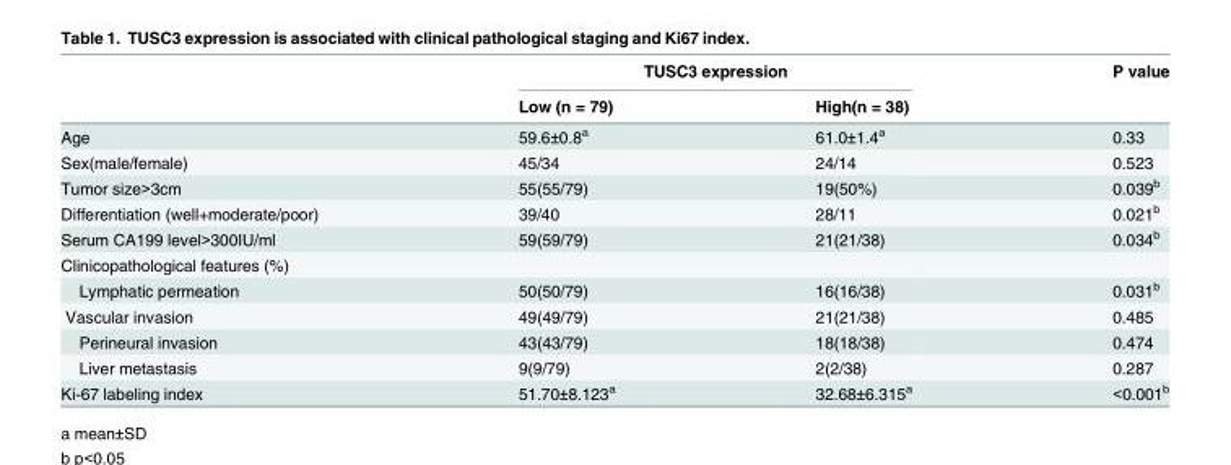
<table><thead><tr><td rowspan="2"></td><td colspan="2">TUSC3 expression</td><td rowspan="2">P value</td></tr><tr><td>Low (n = 79)</td><td>High(n = 38)</td></tr></thead><tbody><tr><td>Age</td><td>59.6±0.8<sup>a</sup></td><td>61.0±1.4<sup>a</sup></td><td>0.33</td></tr><tr><td>Sex(male/female)</td><td>45/34</td><td>24/14</td><td>0.523</td></tr><tr><td>Tumor size&gt;3cm</td><td>55(55/79)</td><td>19(50%)</td><td>0.039<sup>b</sup></td></tr><tr><td>Differentiation (well+moderate/poor)</td><td>39/40</td><td>28/11</td><td>0.021<sup>b</sup></td></tr><tr><td>Serum CA199 level&gt;300IU/ml</td><td>59(59/79)</td><td>21(21/38)</td><td>0.034<sup>b</sup></td></tr><tr><td colspan="4">Clinicopathological features (%)</td></tr><tr><td>Lymphatic permeation</td><td>50(50/79)</td><td>16(16/38)</td><td>0.031<sup>b</sup></td></tr><tr><td>Vascular invasion</td><td>49(49/79)</td><td>21(21/38)</td><td>0.485</td></tr><tr><td>Perineural invasion</td><td>43(43/79)</td><td>18(18/38)</td><td>0.474</td></tr><tr><td>Liver metastasis</td><td>9(9/79)</td><td>2(2/38)</td><td>0.287</td></tr><tr><td>Ki-67 labeling index</td><td>51.70±8.123<sup>a</sup></td><td>32.68±6.315<sup>a</sup></td><td>&lt;0.001<sup>b</sup></td></tr></tbody></table>